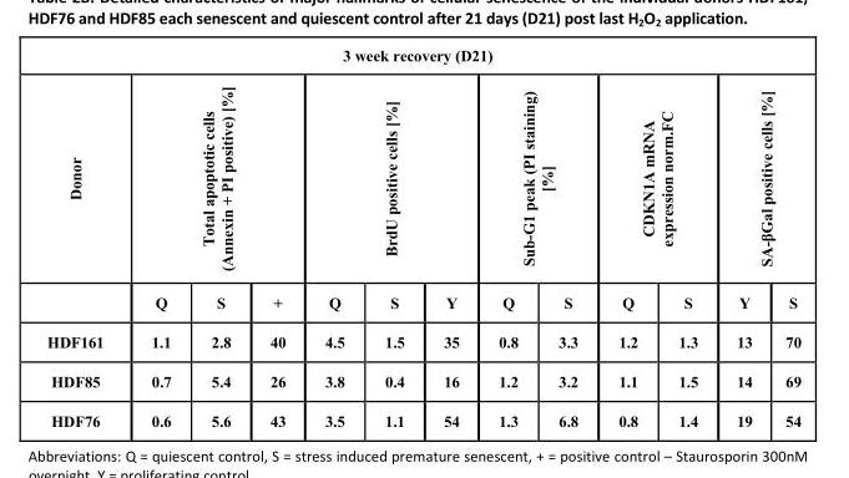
<table><tbody><tr><td colspan="13">3 week recovery (D21)</td></tr><tr><td rowspan="2">Donor</td><td colspan="3">Total apoptotic cells (Annexin + PI positive) [%]</td><td colspan="3">BrdU positive cells [%]</td><td colspan="2">Sub-G1 peak (PI staining) [%]</td><td colspan="2">CDKN1A mRNA expression norm.FC</td><td colspan="2">SA-βGal positive cells [%]</td></tr><tr><td>Q</td><td>S</td><td>+</td><td>Q</td><td>S</td><td>Y</td><td>Q</td><td>S</td><td>Q</td><td>S</td><td>Y</td><td>S</td></tr><tr><td>HDF161</td><td>1.1</td><td>2.8</td><td>40</td><td>4.5</td><td>1.5</td><td>35</td><td>0.8</td><td>3.3</td><td>1.2</td><td>1.3</td><td>13</td><td>70</td></tr><tr><td>HDF85</td><td>0.7</td><td>5.4</td><td>26</td><td>3.8</td><td>0.4</td><td>16</td><td>1.2</td><td>3.2</td><td>1.1</td><td>1.5</td><td>14</td><td>69</td></tr><tr><td>HDF76</td><td>0.6</td><td>5.6</td><td>43</td><td>3.5</td><td>1.1</td><td>54</td><td>1.3</td><td>6.8</td><td>0.8</td><td>1.4</td><td>19</td><td>54</td></tr></tbody></table>